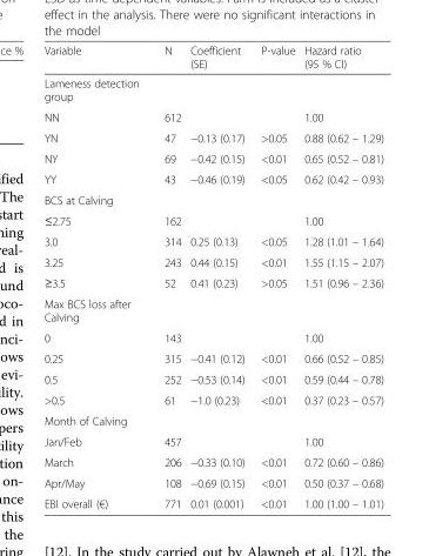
<table><thead><tr><td>Variable</td><td>N</td><td>Coefficient (SE)</td><td>P-value</td><td>Hazard ratio (95 % CI)</td></tr></thead><tbody><tr><td colspan="5">Lameness detection group</td></tr><tr><td>NN</td><td>612</td><td></td><td></td><td>1.00</td></tr><tr><td>YN</td><td>47</td><td>−0.13 (0.17)</td><td>&gt;0.05</td><td>0.88 (0.62 – 1.29)</td></tr><tr><td>NY</td><td>69</td><td>−0.42 (0.15)</td><td>&lt;0.01</td><td>0.65 (0.52 – 0.81)</td></tr><tr><td>YY</td><td>43</td><td>−0.46 (0.19)</td><td>&lt;0.05</td><td>0.62 (0.42 – 0.93)</td></tr><tr><td colspan="5">BCS at Calving</td></tr><tr><td>≤2.75</td><td>162</td><td></td><td></td><td>1.00</td></tr><tr><td>3.0</td><td>314</td><td>0.25 (0.13)</td><td>&lt;0.05</td><td>1.28 (1.01 – 1.64)</td></tr><tr><td>3.25</td><td>243</td><td>0.44 (0.15)</td><td>&lt;0.01</td><td>1.55 (1.15 – 2.07)</td></tr><tr><td>≥3.5</td><td>52</td><td>0.41 (0.23)</td><td>&gt;0.05</td><td>1.51 (0.96 – 2.36)</td></tr><tr><td colspan="5">Max BCS loss after Calving</td></tr><tr><td>0</td><td>143</td><td></td><td></td><td>1.00</td></tr><tr><td>0.25</td><td>315</td><td>−0.41 (0.12)</td><td>&lt;0.01</td><td>0.66 (0.52 – 0.85)</td></tr><tr><td>0.5</td><td>252</td><td>−0.53 (0.14)</td><td>&lt;0.01</td><td>0.59 (0.44 – 0.78)</td></tr><tr><td>&gt;0.5</td><td>61</td><td>−1.0 (0.23)</td><td>&lt;0.01</td><td>0.37 (0.23 – 0.57)</td></tr><tr><td colspan="5">Month of Calving</td></tr><tr><td>Jan/Feb</td><td>457</td><td></td><td></td><td>1.00</td></tr><tr><td>March</td><td>206</td><td>−0.33 (0.10)</td><td>&lt;0.01</td><td>0.72 (0.60 – 0.86)</td></tr><tr><td>Apr/May</td><td>108</td><td>−0.69 (0.15)</td><td>&lt;0.01</td><td>0.50 (0.37 – 0.68)</td></tr><tr><td>EBI overall (€)</td><td>771</td><td>0.01 (0.001)</td><td>&lt;0.01</td><td>1.00 (1.00 – 1.01)</td></tr></tbody></table>